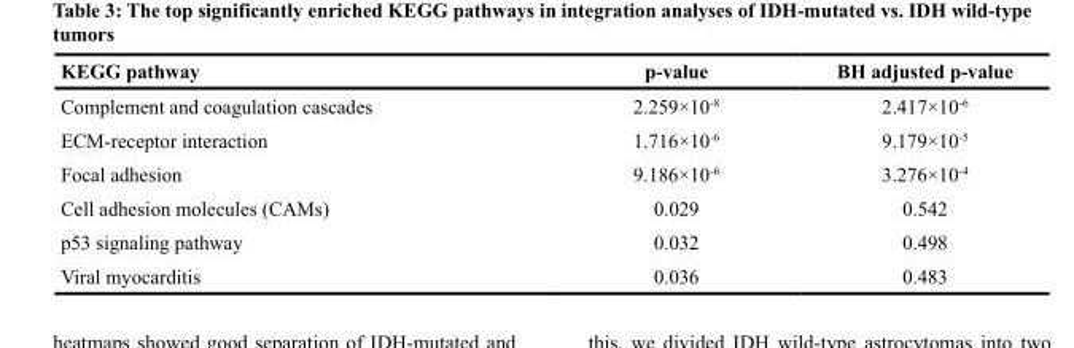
<table><thead><tr><td>KEGG pathway</td><td>p-value</td><td>BH adjusted p-value</td></tr></thead><tbody><tr><td>Complement and coagulation cascades</td><td>2.259×10<sup>-8</sup></td><td>2.417×10<sup>-6</sup></td></tr><tr><td>ECM-receptor interaction</td><td>1.716×10<sup>-6</sup></td><td>9.179×10<sup>-5</sup></td></tr><tr><td>Focal adhesion</td><td>9.186×10<sup>-6</sup></td><td>3.276×10<sup>-4</sup></td></tr><tr><td>Cell adhesion molecules (CAMs)</td><td>0.029</td><td>0.542</td></tr><tr><td>p53 signaling pathway</td><td>0.032</td><td>0.498</td></tr><tr><td>Viral myocarditis</td><td>0.036</td><td>0.483</td></tr></tbody></table>